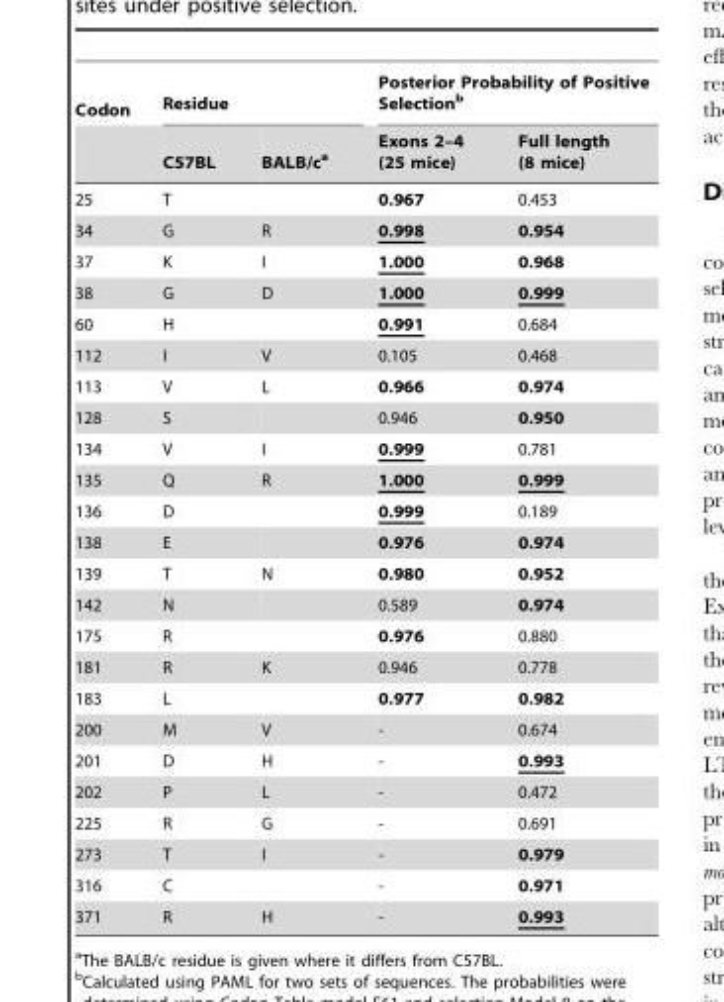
<table><thead><tr><td rowspan="2">Codon</td><td colspan="2">Residue</td><td colspan="2">Posterior Probability of Positive Selection<sup>b</sup></td></tr><tr><td>C57BL</td><td>BALB/c<sup>a</sup></td><td>Exons 2–4 (25 mice)</td><td>Full length (8 mice)</td></tr></thead><tbody><tr><td>25</td><td>T</td><td></td><td>0.967</td><td>0.453</td></tr><tr><td>34</td><td>G</td><td>R</td><td>0.998</td><td>0.954</td></tr><tr><td>37</td><td>K</td><td>I</td><td>1.000</td><td>0.968</td></tr><tr><td>38</td><td>G</td><td>D</td><td>1.000</td><td>0.999</td></tr><tr><td>60</td><td>H</td><td></td><td>0.991</td><td>0.684</td></tr><tr><td>112</td><td>I</td><td>V</td><td>0.105</td><td>0.468</td></tr><tr><td>113</td><td>V</td><td>L</td><td>0.966</td><td>0.974</td></tr><tr><td>128</td><td>S</td><td></td><td>0.946</td><td>0.950</td></tr><tr><td>134</td><td>V</td><td>I</td><td>0.999</td><td>0.781</td></tr><tr><td>135</td><td>Q</td><td>R</td><td>1.000</td><td>0.999</td></tr><tr><td>136</td><td>D</td><td></td><td>0.999</td><td>0.189</td></tr><tr><td>138</td><td>E</td><td></td><td>0.976</td><td>0.974</td></tr><tr><td>139</td><td>T</td><td>N</td><td>0.980</td><td>0.952</td></tr><tr><td>142</td><td>N</td><td></td><td>0.589</td><td>0.974</td></tr><tr><td>175</td><td>R</td><td></td><td>0.976</td><td>0.880</td></tr><tr><td>181</td><td>R</td><td>K</td><td>0.946</td><td>0.778</td></tr><tr><td>183</td><td>L</td><td></td><td>0.977</td><td>0.982</td></tr><tr><td>200</td><td>M</td><td>V</td><td>-</td><td>0.674</td></tr><tr><td>201</td><td>D</td><td>H</td><td>-</td><td>0.993</td></tr><tr><td>202</td><td>P</td><td>L</td><td>-</td><td>0.472</td></tr><tr><td>225</td><td>R</td><td>G</td><td>-</td><td>0.691</td></tr><tr><td>273</td><td>T</td><td>I</td><td>-</td><td>0.979</td></tr><tr><td>316</td><td>C</td><td></td><td>-</td><td>0.971</td></tr><tr><td>371</td><td>R</td><td>H</td><td>-</td><td>0.993</td></tr></tbody></table>